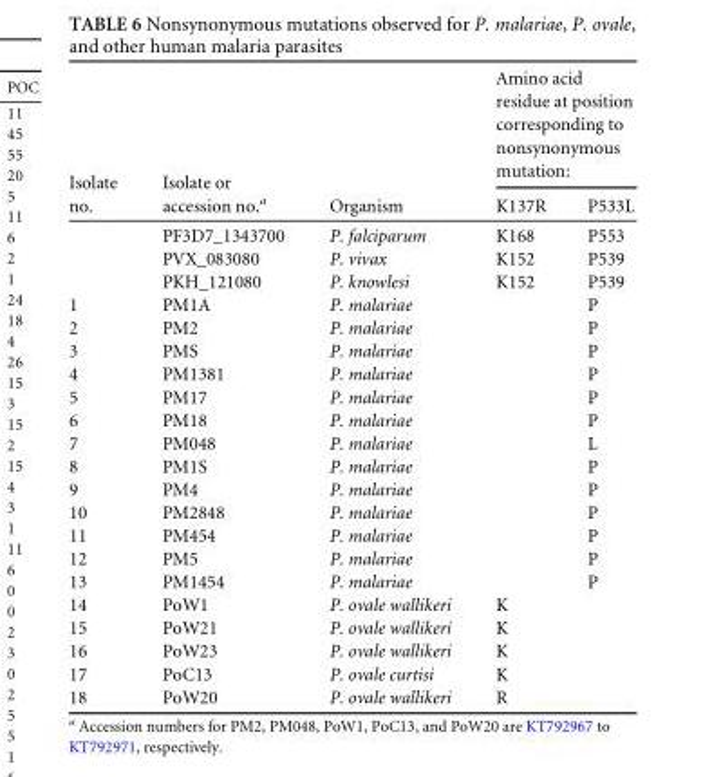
<table><thead><tr><td rowspan="2">Isolate no.</td><td rowspan="2">Isolate or accession no.<sup>a</sup></td><td rowspan="2">Organism</td><td colspan="2">Amino acid residue at position corresponding to nonsynonymous mutation:</td></tr><tr><td>K137R</td><td>P533L</td></tr></thead><tbody><tr><td></td><td>PF3D7_1343700</td><td>P. falciparum</td><td>K168</td><td>P553</td></tr><tr><td></td><td>PVX_083080</td><td>P. vivax</td><td>K152</td><td>P539</td></tr><tr><td></td><td>PKH_121080</td><td>P. knowlesi</td><td>K152</td><td>P539</td></tr><tr><td>1</td><td>PM1A</td><td>P. malariae</td><td></td><td>P</td></tr><tr><td>2</td><td>PM2</td><td>P. malariae</td><td></td><td>P</td></tr><tr><td>3</td><td>PMS</td><td>P. malariae</td><td></td><td>P</td></tr><tr><td>4</td><td>PM1381</td><td>P. malariae</td><td></td><td>P</td></tr><tr><td>5</td><td>PM17</td><td>P. malariae</td><td></td><td>P</td></tr><tr><td>6</td><td>PM18</td><td>P. malariae</td><td></td><td>P</td></tr><tr><td>7</td><td>PM048</td><td>P. malariae</td><td></td><td>L</td></tr><tr><td>8</td><td>PM1S</td><td>P. malariae</td><td></td><td>P</td></tr><tr><td>9</td><td>PM4</td><td>P. malariae</td><td></td><td>P</td></tr><tr><td>10</td><td>PM2848</td><td>P. malariae</td><td></td><td>P</td></tr><tr><td>11</td><td>PM454</td><td>P. malariae</td><td></td><td>P</td></tr><tr><td>12</td><td>PM5</td><td>P. malariae</td><td></td><td>P</td></tr><tr><td>13</td><td>PM1454</td><td>P. malariae</td><td></td><td>P</td></tr><tr><td>14</td><td>PoW1</td><td>P. ovale wallikeri</td><td>K</td><td></td></tr><tr><td>15</td><td>PoW21</td><td>P. ovale wallikeri</td><td>K</td><td></td></tr><tr><td>16</td><td>PoW23</td><td>P. ovale wallikeri</td><td>K</td><td></td></tr><tr><td>17</td><td>PoC13</td><td>P. ovale curtisi</td><td>K</td><td></td></tr><tr><td>18</td><td>PoW20</td><td>P. ovale wallikeri</td><td>R</td><td></td></tr></tbody></table>